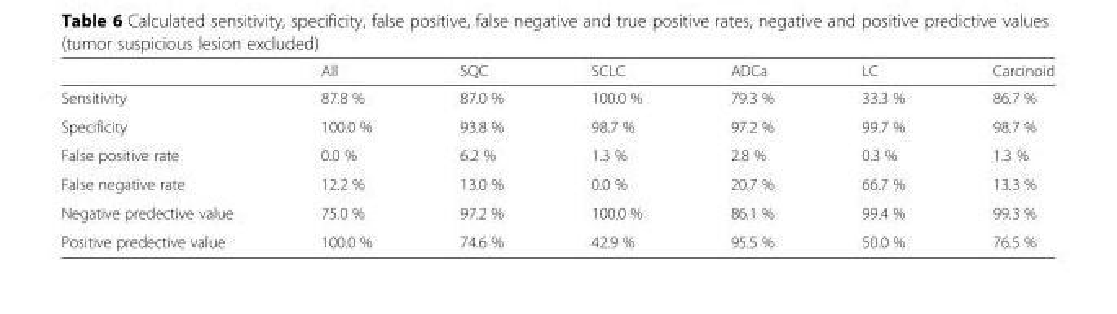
<table><thead><tr><td></td><td>All</td><td>SQC</td><td>SCLC</td><td>ADCa</td><td>LC</td><td>Carcinoid</td></tr></thead><tbody><tr><td>Sensitivity</td><td>87.8 %</td><td>87.0 %</td><td>100.0 %</td><td>79.3 %</td><td>33.3 %</td><td>86.7 %</td></tr><tr><td>Specificity</td><td>100.0 %</td><td>93.8 %</td><td>98.7 %</td><td>97.2 %</td><td>99.7 %</td><td>98.7 %</td></tr><tr><td>False positive rate</td><td>0.0 %</td><td>6.2 %</td><td>1.3 %</td><td>2.8 %</td><td>0.3 %</td><td>1.3 %</td></tr><tr><td>False negative rate</td><td>12.2 %</td><td>13.0 %</td><td>0.0 %</td><td>20.7 %</td><td>66.7 %</td><td>13.3 %</td></tr><tr><td>Negative predective value</td><td>75.0 %</td><td>97.2 %</td><td>100.0 %</td><td>86.1 %</td><td>99.4 %</td><td>99.3 %</td></tr><tr><td>Positive predective value</td><td>100.0 %</td><td>74.6 %</td><td>42.9 %</td><td>95.5 %</td><td>50.0 %</td><td>76.5 %</td></tr></tbody></table>